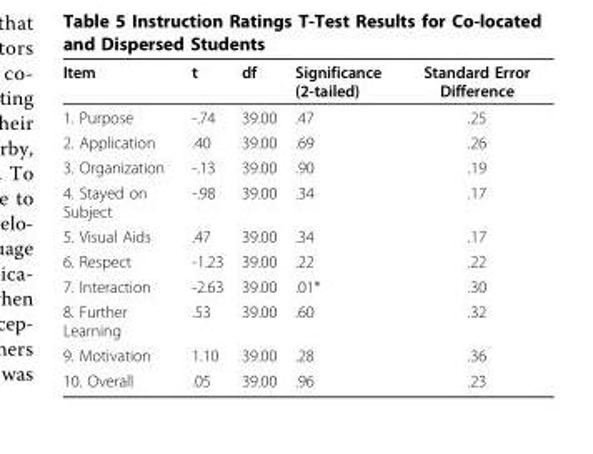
<table><thead><tr><td>Item</td><td>t</td><td>df</td><td>Significance (2-tailed)</td><td>Standard Error Difference</td></tr></thead><tbody><tr><td>1. Purpose</td><td>-.74</td><td>39.00</td><td>.47</td><td>.25</td></tr><tr><td>2. Application</td><td>.40</td><td>39.00</td><td>.69</td><td>.26</td></tr><tr><td>3. Organization</td><td>-.13</td><td>39.00</td><td>.90</td><td>.19</td></tr><tr><td>4. Stayed on Subject</td><td>-.98</td><td>39.00</td><td>.34</td><td>.17</td></tr><tr><td>5. Visual Aids</td><td>.47</td><td>39.00</td><td>.34</td><td>.17</td></tr><tr><td>6. Respect</td><td>-1.23</td><td>39.00</td><td>.22</td><td>.22</td></tr><tr><td>7. Interaction</td><td>-2.63</td><td>39.00</td><td>.01*</td><td>.30</td></tr><tr><td>8. Further Learning</td><td>.53</td><td>39.00</td><td>.60</td><td>.32</td></tr><tr><td>9. Motivation</td><td>1.10</td><td>39.00</td><td>.28</td><td>.36</td></tr><tr><td>10. Overall</td><td>.05</td><td>39.00</td><td>.96</td><td>.23</td></tr></tbody></table>